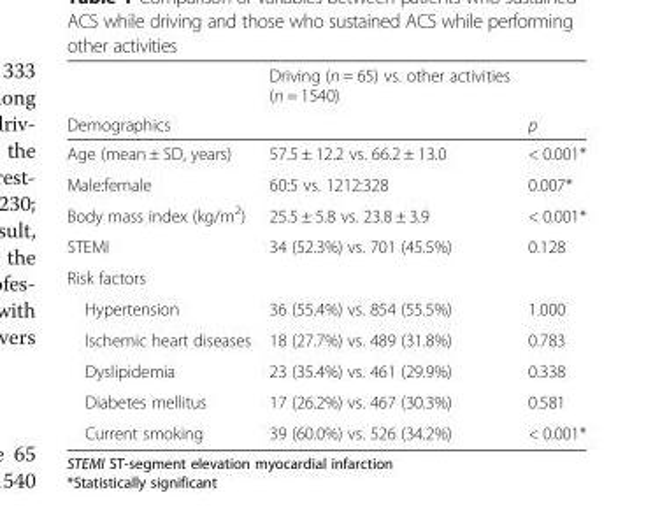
<table><thead><tr><td rowspan="2">Demographics</td><td rowspan="2">Driving (n = 65) vs. other activities (n = 1540)</td><td rowspan="2">p</td></tr><tr></tr></thead><tbody><tr><td>Age (mean ± SD, years)</td><td>57.5 ± 12.2 vs. 66.2 ± 13.0</td><td>&lt; 0.001*</td></tr><tr><td>Male:female</td><td>60:5 vs. 1212:328</td><td>0.007*</td></tr><tr><td>Body mass index (kg/m<sup>2</sup>)</td><td>25.5 ± 5.8 vs. 23.8 ± 3.9</td><td>&lt; 0.001*</td></tr><tr><td>STEMI</td><td>34 (52.3%) vs. 701 (45.5%)</td><td>0.128</td></tr><tr><td colspan="3">Risk factors</td></tr><tr><td>Hypertension</td><td>36 (55.4%) vs. 854 (55.5%)</td><td>1.000</td></tr><tr><td>Ischemic heart diseases</td><td>18 (27.7%) vs. 489 (31.8%)</td><td>0.783</td></tr><tr><td>Dyslipidemia</td><td>23 (35.4%) vs. 461 (29.9%)</td><td>0.338</td></tr><tr><td>Diabetes mellitus</td><td>17 (26.2%) vs. 467 (30.3%)</td><td>0.581</td></tr><tr><td>Current smoking</td><td>39 (60.0%) vs. 526 (34.2%)</td><td>&lt; 0.001*</td></tr></tbody></table>